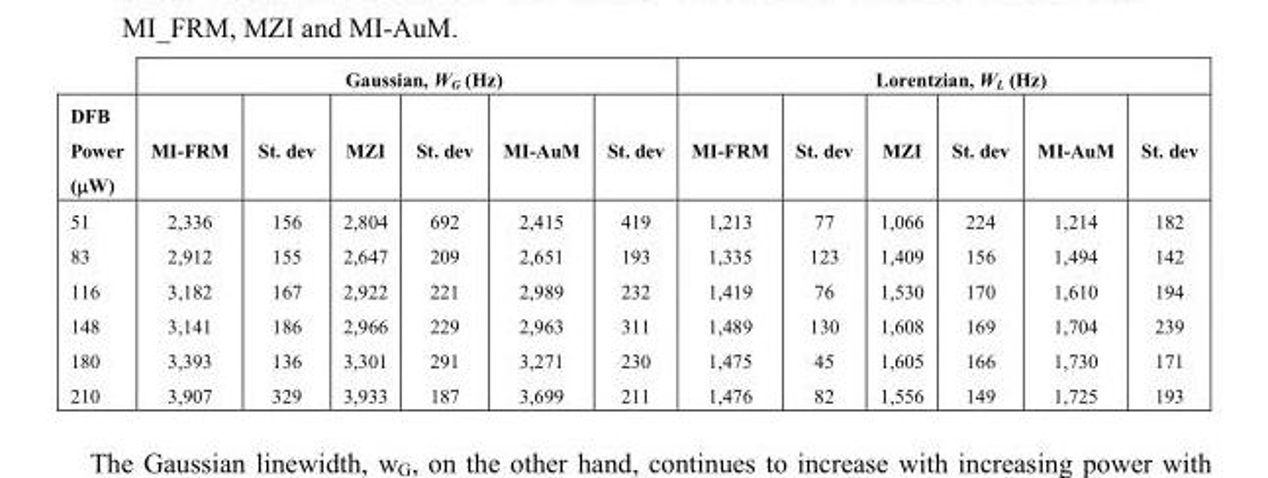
<table><thead><tr><td rowspan="2">DFB Power (μW)</td><td colspan="6">Gaussian, W<sub>G</sub> (Hz)</td><td colspan="6">Lorentzian, W<sub>L</sub> (Hz)</td></tr><tr><td>MI-FRM</td><td>St. dev</td><td>MZI</td><td>St. dev</td><td>MI-AuM</td><td>St. dev</td><td>MI-FRM</td><td>St. dev</td><td>MZI</td><td>St. dev</td><td>MI-AuM</td><td>St. dev</td></tr></thead><tbody><tr><td>51</td><td>2,336</td><td>156</td><td>2,804</td><td>692</td><td>2,415</td><td>419</td><td>1,213</td><td>77</td><td>1,066</td><td>224</td><td>1,214</td><td>182</td></tr><tr><td>83</td><td>2,912</td><td>155</td><td>2,647</td><td>209</td><td>2,651</td><td>193</td><td>1,335</td><td>123</td><td>1,409</td><td>156</td><td>1,494</td><td>142</td></tr><tr><td>116</td><td>3,182</td><td>167</td><td>2,922</td><td>221</td><td>2,989</td><td>232</td><td>1,419</td><td>76</td><td>1,530</td><td>170</td><td>1,610</td><td>194</td></tr><tr><td>148</td><td>3,141</td><td>186</td><td>2,966</td><td>229</td><td>2,963</td><td>311</td><td>1,489</td><td>130</td><td>1,608</td><td>169</td><td>1,704</td><td>239</td></tr><tr><td>180</td><td>3,393</td><td>136</td><td>3,301</td><td>291</td><td>3,271</td><td>230</td><td>1,475</td><td>45</td><td>1,605</td><td>166</td><td>1,730</td><td>171</td></tr><tr><td>210</td><td>3,907</td><td>329</td><td>3,933</td><td>187</td><td>3,699</td><td>211</td><td>1,476</td><td>82</td><td>1,556</td><td>149</td><td>1,725</td><td>193</td></tr></tbody></table>